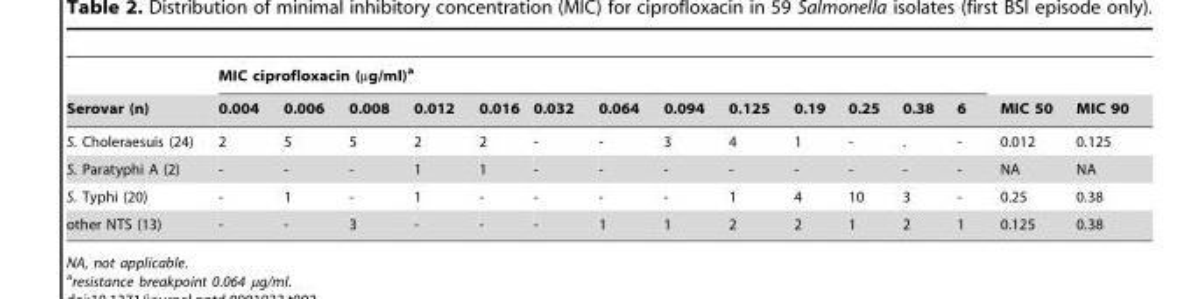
<table><thead><tr><td rowspan="2">Serovar (n)</td><td colspan="13">MIC ciprofloxacin (µg/ml)<sup>a</sup></td><td rowspan="2">MIC 50</td><td rowspan="2">MIC 90</td></tr><tr><td>0.004</td><td>0.006</td><td>0.008</td><td>0.012</td><td>0.016</td><td>0.032</td><td>0.064</td><td>0.094</td><td>0.125</td><td>0.19</td><td>0.25</td><td>0.38</td><td>6</td></tr></thead><tbody><tr><td>S. Choleraesuis (24)</td><td>2</td><td>5</td><td>5</td><td>2</td><td>2</td><td>-</td><td>-</td><td>3</td><td>4</td><td>1</td><td>-</td><td>.</td><td>-</td><td>0.012</td><td>0.125</td></tr><tr><td>S. Paratyphi A (2)</td><td>-</td><td>-</td><td>-</td><td>1</td><td>1</td><td>-</td><td>-</td><td>-</td><td>-</td><td>-</td><td>-</td><td>-</td><td>-</td><td>NA</td><td>NA</td></tr><tr><td>S. Typhi (20)</td><td>-</td><td>1</td><td>-</td><td>1</td><td>-</td><td>-</td><td>-</td><td>-</td><td>1</td><td>4</td><td>10</td><td>3</td><td>-</td><td>0.25</td><td>0.38</td></tr><tr><td>other NTS (13)</td><td>-</td><td>-</td><td>3</td><td>-</td><td>-</td><td>-</td><td>1</td><td>1</td><td>2</td><td>2</td><td>1</td><td>2</td><td>1</td><td>0.125</td><td>0.38</td></tr></tbody></table>